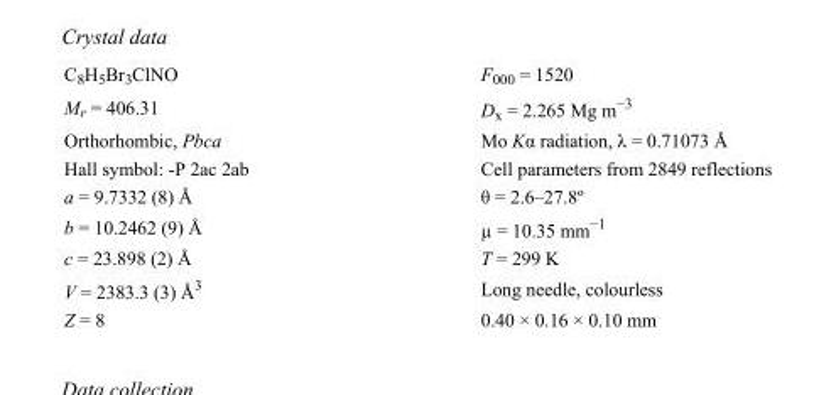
<table><tbody><tr><td>C<sub>8</sub>H<sub>5</sub>Br<sub>3</sub>ClNO</td><td>F000 = 1520</td></tr><tr><td>M<sub>r</sub> = 406.31</td><td>D<sub>x</sub> = 2.265 Mg m<sup>−3</sup></td></tr><tr><td>Orthorhombic, Pbca</td><td>Mo Kα radiation, λ = 0.71073 Å</td></tr><tr><td>Hall symbol: -P 2ac 2ab</td><td>Cell parameters from 2849 reflections</td></tr><tr><td>a = 9.7332 (8) Å</td><td>θ = 2.6–27.8º</td></tr><tr><td>b = 10.2462 (9) Å</td><td>µ = 10.35 mm<sup>−1</sup></td></tr><tr><td>c = 23.898 (2) Å</td><td>T = 299 K</td></tr><tr><td>V = 2383.3 (3) Å<sup>3</sup></td><td>Long needle, colourless</td></tr><tr><td>Z = 8</td><td>0.40 × 0.16 × 0.10 mm</td></tr></tbody></table>